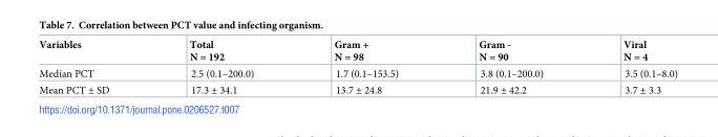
<table><thead><tr><td>Variables</td><td>Total N = 192</td><td>Gram + N = 98</td><td>Gram - N = 90</td><td>Viral N = 4</td></tr></thead><tbody><tr><td>Median PCT</td><td>2.5 (0.1–200.0)</td><td>1.7 (0.1–153.5)</td><td>3.8 (0.1–200.0)</td><td>3.5 (0.1–8.0)</td></tr><tr><td>Mean PCT ± SD</td><td>17.3 ± 34.1</td><td>13.7 ± 24.8</td><td>21.9 ± 42.2</td><td>3.7 ± 3.3</td></tr></tbody></table>